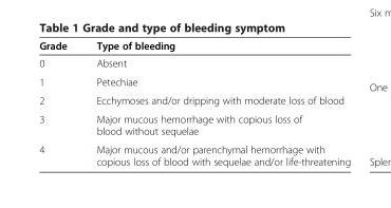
<table><thead><tr><td>Grade</td><td>Type of bleeding</td></tr></thead><tbody><tr><td>0</td><td>Absent</td></tr><tr><td>1</td><td>Petechiae</td></tr><tr><td>2</td><td>Ecchymoses and/or dripping with moderate loss of blood</td></tr><tr><td>3</td><td>Major mucous hemorrhage with copious loss of blood without sequelae</td></tr><tr><td>4</td><td>Major mucous and/or parenchymal hemorrhage with copious loss of blood with sequelae and/or life-threatening</td></tr></tbody></table>